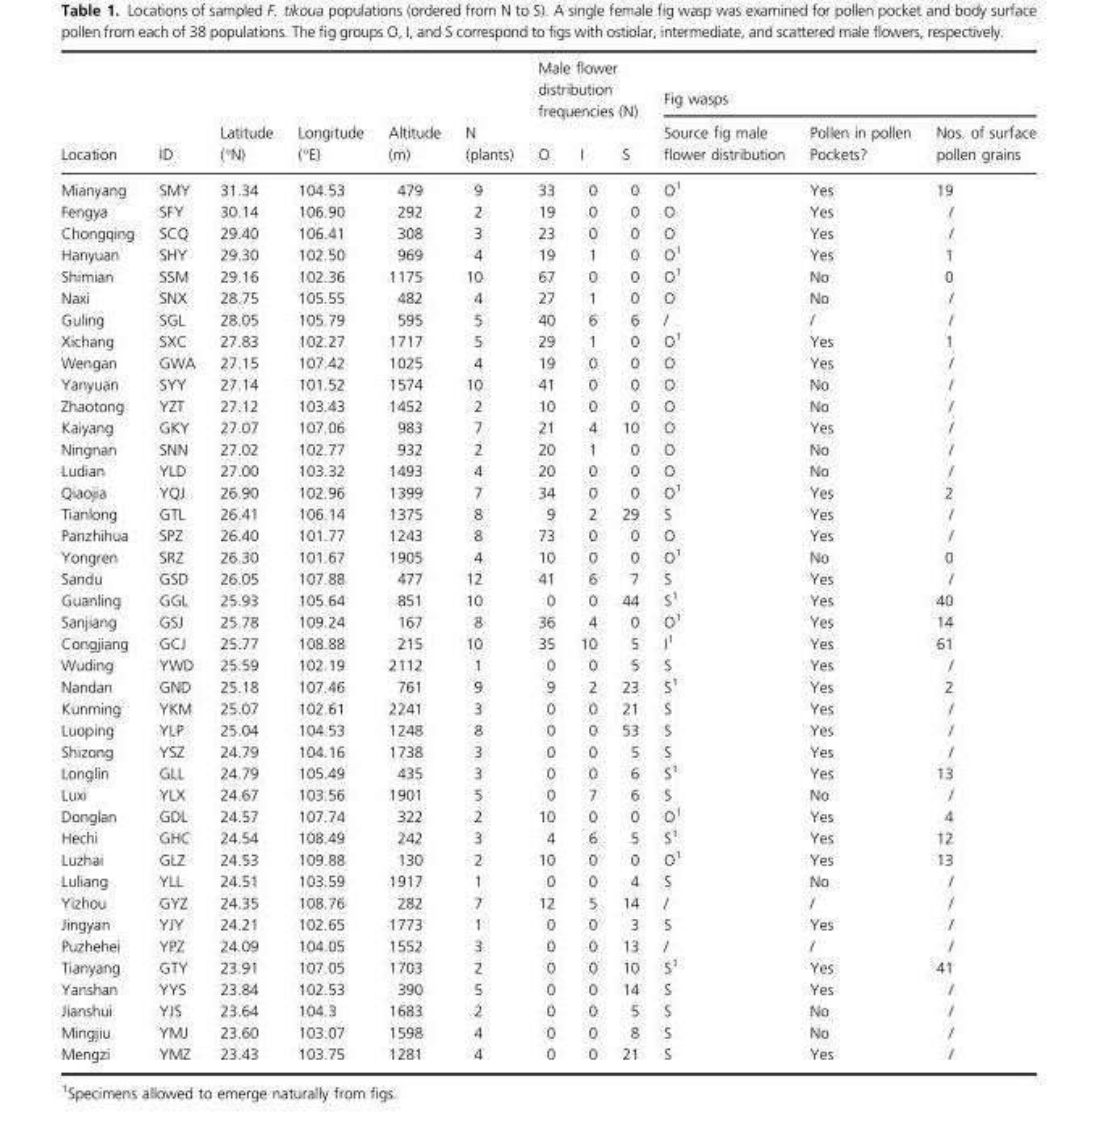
<table><thead><tr><td rowspan="2">Location</td><td rowspan="2">ID</td><td rowspan="2">Latitude (°N)</td><td rowspan="2">Longitude (°E)</td><td rowspan="2">Altitude (m)</td><td rowspan="2">N (plants)</td><td colspan="3">Male flower distribution frequencies (N)</td><td colspan="3">Fig wasps</td></tr><tr><td>O</td><td>I</td><td>S</td><td>Source fig male flower distribution</td><td>Pollen in pollen Pockets?</td><td>Nos. of surface pollen grains</td></tr></thead><tbody><tr><td>Mianyang</td><td>SMY</td><td>31.34</td><td>104.53</td><td>479</td><td>9</td><td>33</td><td>0</td><td>0</td><td>O1</td><td>Yes</td><td>19</td></tr><tr><td>Fengya</td><td>SFY</td><td>30.14</td><td>106.90</td><td>292</td><td>2</td><td>19</td><td>0</td><td>0</td><td>O</td><td>Yes</td><td>/</td></tr><tr><td>Chongqing</td><td>SCQ</td><td>29.40</td><td>106.41</td><td>308</td><td>3</td><td>23</td><td>0</td><td>0</td><td>O</td><td>Yes</td><td>/</td></tr><tr><td>Hanyuan</td><td>SHY</td><td>29.30</td><td>102.50</td><td>969</td><td>4</td><td>19</td><td>1</td><td>0</td><td>O1</td><td>Yes</td><td>1</td></tr><tr><td>Shimian</td><td>SSM</td><td>29.16</td><td>102.36</td><td>1175</td><td>10</td><td>67</td><td>0</td><td>0</td><td>O1</td><td>No</td><td>0</td></tr><tr><td>Naxi</td><td>SNX</td><td>28.75</td><td>105.55</td><td>482</td><td>4</td><td>27</td><td>1</td><td>0</td><td>O</td><td>No</td><td>/</td></tr><tr><td>Guling</td><td>SGL</td><td>28.05</td><td>105.79</td><td>595</td><td>5</td><td>40</td><td>6</td><td>6</td><td>/</td><td>/</td><td>/</td></tr><tr><td>Xichang</td><td>SXC</td><td>27.83</td><td>102.27</td><td>1717</td><td>5</td><td>29</td><td>1</td><td>0</td><td>O1</td><td>Yes</td><td>1</td></tr><tr><td>Wengan</td><td>GWA</td><td>27.15</td><td>107.42</td><td>1025</td><td>4</td><td>19</td><td>0</td><td>0</td><td>O</td><td>Yes</td><td>/</td></tr><tr><td>Yanyuan</td><td>SYY</td><td>27.14</td><td>101.52</td><td>1574</td><td>10</td><td>41</td><td>0</td><td>0</td><td>O</td><td>No</td><td>/</td></tr><tr><td>Zhaotong</td><td>YZT</td><td>27.12</td><td>103.43</td><td>1452</td><td>2</td><td>10</td><td>0</td><td>0</td><td>O</td><td>No</td><td>/</td></tr><tr><td>Kaiyang</td><td>GKY</td><td>27.07</td><td>107.06</td><td>983</td><td>7</td><td>21</td><td>4</td><td>10</td><td>O</td><td>Yes</td><td>/</td></tr><tr><td>Ningnan</td><td>SNN</td><td>27.02</td><td>102.77</td><td>932</td><td>2</td><td>20</td><td>1</td><td>0</td><td>O</td><td>No</td><td>/</td></tr><tr><td>Ludian</td><td>YLD</td><td>27.00</td><td>103.32</td><td>1493</td><td>4</td><td>20</td><td>0</td><td>0</td><td>O</td><td>No</td><td>/</td></tr><tr><td>Qiaojia</td><td>YQJ</td><td>26.90</td><td>102.96</td><td>1399</td><td>7</td><td>34</td><td>0</td><td>0</td><td>O1</td><td>Yes</td><td>2</td></tr><tr><td>Tianlong</td><td>GTL</td><td>26.41</td><td>106.14</td><td>1375</td><td>8</td><td>9</td><td>2</td><td>29</td><td>S</td><td>Yes</td><td>/</td></tr><tr><td>Panzhihua</td><td>SPZ</td><td>26.40</td><td>101.77</td><td>1243</td><td>8</td><td>73</td><td>0</td><td>0</td><td>O</td><td>Yes</td><td>/</td></tr><tr><td>Yongren</td><td>SRZ</td><td>26.30</td><td>101.67</td><td>1905</td><td>4</td><td>10</td><td>0</td><td>0</td><td>O1</td><td>No</td><td>0</td></tr><tr><td>Sandu</td><td>GSD</td><td>26.05</td><td>107.88</td><td>477</td><td>12</td><td>41</td><td>6</td><td>7</td><td>S</td><td>Yes</td><td>/</td></tr><tr><td>Guanling</td><td>GGL</td><td>25.93</td><td>105.64</td><td>851</td><td>10</td><td>0</td><td>0</td><td>44</td><td>S1</td><td>Yes</td><td>40</td></tr><tr><td>Sanjiang</td><td>GSJ</td><td>25.78</td><td>109.24</td><td>167</td><td>8</td><td>36</td><td>4</td><td>0</td><td>O1</td><td>Yes</td><td>14</td></tr><tr><td>Congjiang</td><td>GCJ</td><td>25.77</td><td>108.88</td><td>215</td><td>10</td><td>35</td><td>10</td><td>5</td><td>I1</td><td>Yes</td><td>61</td></tr><tr><td>Wuding</td><td>YWD</td><td>25.59</td><td>102.19</td><td>2112</td><td>1</td><td>0</td><td>0</td><td>5</td><td>S</td><td>Yes</td><td>/</td></tr><tr><td>Nandan</td><td>GND</td><td>25.18</td><td>107.46</td><td>761</td><td>9</td><td>9</td><td>2</td><td>23</td><td>S1</td><td>Yes</td><td>2</td></tr><tr><td>Kunming</td><td>YKM</td><td>25.07</td><td>102.61</td><td>2241</td><td>3</td><td>0</td><td>0</td><td>21</td><td>S</td><td>Yes</td><td>/</td></tr><tr><td>Luoping</td><td>YLP</td><td>25.04</td><td>104.53</td><td>1248</td><td>8</td><td>0</td><td>0</td><td>53</td><td>S</td><td>Yes</td><td>/</td></tr><tr><td>Shizong</td><td>YSZ</td><td>24.79</td><td>104.16</td><td>1738</td><td>3</td><td>0</td><td>0</td><td>5</td><td>S</td><td>Yes</td><td>/</td></tr><tr><td>Longlin</td><td>GLL</td><td>24.79</td><td>105.49</td><td>435</td><td>3</td><td>0</td><td>0</td><td>6</td><td>S1</td><td>Yes</td><td>13</td></tr><tr><td>Luxi</td><td>YLX</td><td>24.67</td><td>103.56</td><td>1901</td><td>5</td><td>0</td><td>7</td><td>6</td><td>S</td><td>No</td><td>/</td></tr><tr><td>Donglan</td><td>GDL</td><td>24.57</td><td>107.74</td><td>322</td><td>2</td><td>10</td><td>0</td><td>0</td><td>O1</td><td>Yes</td><td>4</td></tr><tr><td>Hechi</td><td>GHC</td><td>24.54</td><td>108.49</td><td>242</td><td>3</td><td>4</td><td>6</td><td>5</td><td>S1</td><td>Yes</td><td>12</td></tr><tr><td>Luzhai</td><td>GLZ</td><td>24.53</td><td>109.88</td><td>130</td><td>2</td><td>10</td><td>0</td><td>0</td><td>O1</td><td>Yes</td><td>13</td></tr><tr><td>Luliang</td><td>YLL</td><td>24.51</td><td>103.59</td><td>1917</td><td>1</td><td>0</td><td>0</td><td>4</td><td>S</td><td>No</td><td>/</td></tr><tr><td>Yizhou</td><td>GYZ</td><td>24.35</td><td>108.76</td><td>282</td><td>7</td><td>12</td><td>5</td><td>14</td><td>/</td><td>/</td><td>/</td></tr><tr><td>Jingyan</td><td>YJY</td><td>24.21</td><td>102.65</td><td>1773</td><td>1</td><td>0</td><td>0</td><td>3</td><td>S</td><td>Yes</td><td>/</td></tr><tr><td>Puzhehei</td><td>YPZ</td><td>24.09</td><td>104.05</td><td>1552</td><td>3</td><td>0</td><td>0</td><td>13</td><td>/</td><td>/</td><td>/</td></tr><tr><td>Tianyang</td><td>GTY</td><td>23.91</td><td>107.05</td><td>1703</td><td>2</td><td>0</td><td>0</td><td>10</td><td>S1</td><td>Yes</td><td>41</td></tr><tr><td>Yanshan</td><td>YYS</td><td>23.84</td><td>102.53</td><td>390</td><td>5</td><td>0</td><td>0</td><td>14</td><td>S</td><td>Yes</td><td>/</td></tr><tr><td>Jianshui</td><td>YJS</td><td>23.64</td><td>104.3</td><td>1683</td><td>2</td><td>0</td><td>0</td><td>5</td><td>S</td><td>No</td><td>/</td></tr><tr><td>Mingjiu</td><td>YMJ</td><td>23.60</td><td>103.07</td><td>1598</td><td>4</td><td>0</td><td>0</td><td>8</td><td>S</td><td>No</td><td>/</td></tr><tr><td>Mengzi</td><td>YMZ</td><td>23.43</td><td>103.75</td><td>1281</td><td>4</td><td>0</td><td>0</td><td>21</td><td>S</td><td>Yes</td><td>/</td></tr></tbody></table>